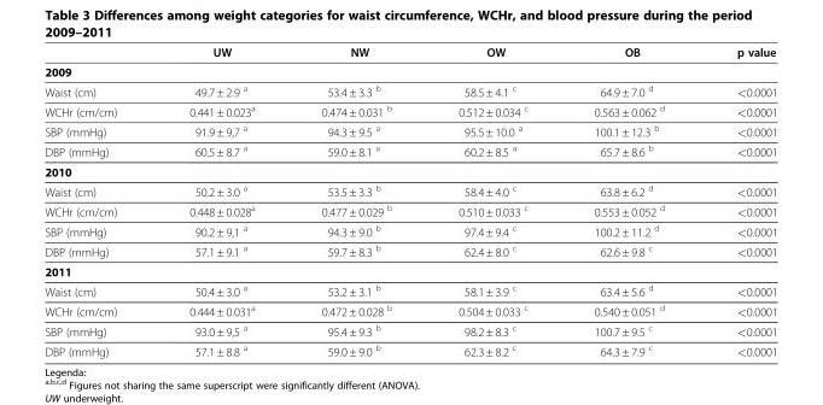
<table><thead><tr><td></td><td>UW</td><td>NW</td><td>OW</td><td>OB</td><td>p value</td></tr></thead><tbody><tr><td colspan="6">2009</td></tr><tr><td>Waist (cm)</td><td>49.7 ± 2.9 <sup>a</sup></td><td>53.4 ± 3.3 <sup>b</sup></td><td>58.5 ± 4.1 <sup>c</sup></td><td>64.9 ± 7.0 <sup>d</sup></td><td>&lt;0.0001</td></tr><tr><td>WCHr (cm/cm)</td><td>0.441 ± 0.023<sup>a</sup></td><td>0.474 ± 0.031 <sup>b</sup></td><td>0.512 ± 0.034 <sup>c</sup></td><td>0.563 ± 0.062 <sup>d</sup></td><td>&lt;0.0001</td></tr><tr><td>SBP (mmHg)</td><td>91.9 ± 9,7 <sup>a</sup></td><td>94.3 ± 9.5 <sup>a</sup></td><td>95.5 ± 10.0 <sup>a</sup></td><td>100.1 ± 12.3 <sup>b</sup></td><td>&lt;0.0001</td></tr><tr><td>DBP (mmHg)</td><td>60.5 ± 8.7 <sup>a</sup></td><td>59.0 ± 8.1 <sup>a</sup></td><td>60.2 ± 8.5 <sup>a</sup></td><td>65.7 ± 8.6 <sup>b</sup></td><td>&lt;0.0001</td></tr><tr><td colspan="6">2010</td></tr><tr><td>Waist (cm)</td><td>50.2 ± 3.0 <sup>a</sup></td><td>53.5 ± 3.3 <sup>b</sup></td><td>58.4 ± 4.0 <sup>c</sup></td><td>63.8 ± 6.2 <sup>d</sup></td><td>&lt;0.0001</td></tr><tr><td>WCHr (cm/cm)</td><td>0.448 ± 0.028<sup>a</sup></td><td>0.477 ± 0.029 <sup>b</sup></td><td>0.510 ± 0.033 <sup>c</sup></td><td>0.553 ± 0.052 <sup>d</sup></td><td>&lt;0.0001</td></tr><tr><td>SBP (mmHg)</td><td>90.2 ± 9,1 <sup>a</sup></td><td>94.3 ± 9.0 <sup>b</sup></td><td>97.4 ± 9.4 <sup>c</sup></td><td>100.2 ± 11.2 <sup>d</sup></td><td>&lt;0.0001</td></tr><tr><td>DBP (mmHg)</td><td>57.1 ± 9.1 <sup>a</sup></td><td>59.7 ± 8.3 <sup>b</sup></td><td>62.4 ± 8.0 <sup>c</sup></td><td>62.6 ± 9.8 <sup>c</sup></td><td>&lt;0.0001</td></tr><tr><td colspan="6">2011</td></tr><tr><td>Waist (cm)</td><td>50.4 ± 3.0 <sup>a</sup></td><td>53.2 ± 3.1 <sup>b</sup></td><td>58.1 ± 3.9 <sup>c</sup></td><td>63.4 ± 5.6 <sup>d</sup></td><td>&lt;0.0001</td></tr><tr><td>WCHr (cm/cm)</td><td>0.444 ± 0.031<sup>a</sup></td><td>0.472 ± 0.028 <sup>b</sup></td><td>0.504 ± 0.033 <sup>c</sup></td><td>0.540 ± 0.051 <sup>d</sup></td><td>&lt;0.0001</td></tr><tr><td>SBP (mmHg)</td><td>93.0 ± 9,5 <sup>a</sup></td><td>95.4 ± 9.3 <sup>b</sup></td><td>98.2 ± 8.3 <sup>c</sup></td><td>100.7 ± 9.5 <sup>c</sup></td><td>&lt;0.0001</td></tr><tr><td>DBP (mmHg)</td><td>57.1 ± 8.8 <sup>a</sup></td><td>59.0 ± 9.0 <sup>b</sup></td><td>62.3 ± 8.2 <sup>c</sup></td><td>64.3 ± 7.9 <sup>c</sup></td><td>&lt;0.0001</td></tr></tbody></table>